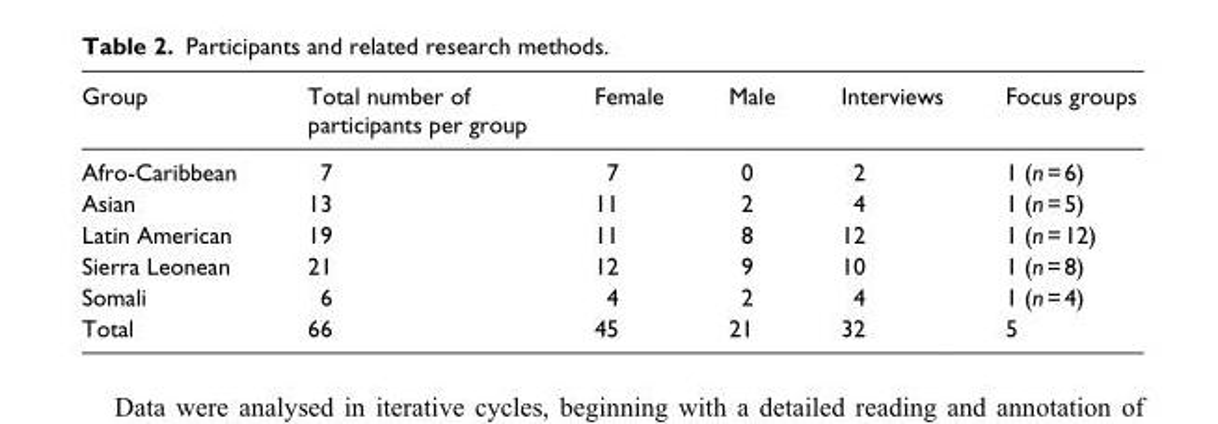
<table><thead><tr><td>Group</td><td>Total number of participants per group</td><td>Female</td><td>Male</td><td>Interviews</td><td>Focus groups</td></tr></thead><tbody><tr><td>Afro-Caribbean</td><td>7</td><td>7</td><td>0</td><td>2</td><td>1 (n = 6)</td></tr><tr><td>Asian</td><td>13</td><td>11</td><td>2</td><td>4</td><td>1 (n = 5)</td></tr><tr><td>Latin American</td><td>19</td><td>11</td><td>8</td><td>12</td><td>1 (n = 12)</td></tr><tr><td>Sierra Leonean</td><td>21</td><td>12</td><td>9</td><td>10</td><td>1 (n = 8)</td></tr><tr><td>Somali</td><td>6</td><td>4</td><td>2</td><td>4</td><td>1 (n = 4)</td></tr><tr><td>Total</td><td>66</td><td>45</td><td>21</td><td>32</td><td>5</td></tr></tbody></table>